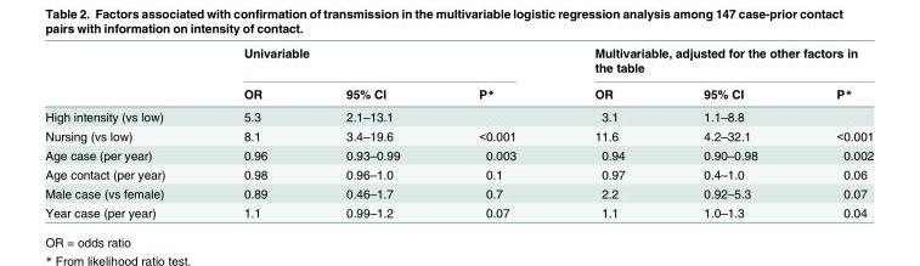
<table><thead><tr><td rowspan="2"></td><td colspan="3">Univariable</td><td colspan="3">Multivariable, adjusted for the other factors in the table</td></tr><tr><td>OR</td><td>95% CI</td><td>P*</td><td>OR</td><td>95% CI</td><td>P*</td></tr></thead><tbody><tr><td>High intensity (vs low)</td><td>5.3</td><td>2.1–13.1</td><td></td><td>3.1</td><td>1.1–8.8</td><td></td></tr><tr><td>Nursing (vs low)</td><td>8.1</td><td>3.4–19.6</td><td>&lt;0.001</td><td>11.6</td><td>4.2–32.1</td><td>&lt;0.001</td></tr><tr><td>Age case (per year)</td><td>0.96</td><td>0.93–0.99</td><td>0.003</td><td>0.94</td><td>0.90–0.98</td><td>0.002</td></tr><tr><td>Age contact (per year)</td><td>0.98</td><td>0.96–1.0</td><td>0.1</td><td>0.97</td><td>0.4–1.0</td><td>0.06</td></tr><tr><td>Male case (vs female)</td><td>0.89</td><td>0.46–1.7</td><td>0.7</td><td>2.2</td><td>0.92–5.3</td><td>0.07</td></tr><tr><td>Year case (per year)</td><td>1.1</td><td>0.99–1.2</td><td>0.07</td><td>1.1</td><td>1.0–1.3</td><td>0.04</td></tr></tbody></table>